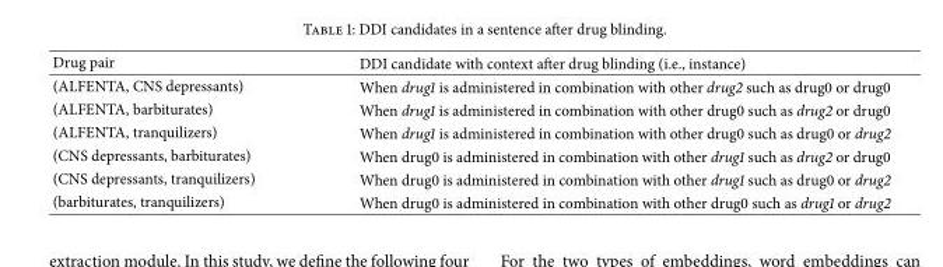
<table><thead><tr><td>Drug pair</td><td>DDI candidate with context after drug blinding (i.e., instance)</td></tr></thead><tbody><tr><td>(ALFENTA, CNS depressants)</td><td>When drug1 is administered in combination with other drug2 such as drug0 or drug0</td></tr><tr><td>(ALFENTA, barbiturates)</td><td>When drug1 is administered in combination with other drug0 such as drug2 or drug0</td></tr><tr><td>(ALFENTA, tranquilizers)</td><td>When drug1 is administered in combination with other drug0 such as drug0 or drug2</td></tr><tr><td>(CNS depressants, barbiturates)</td><td>When drug0 is administered in combination with other drug1 such as drug2 or drug0</td></tr><tr><td>(CNS depressants, tranquilizers)</td><td>When drug0 is administered in combination with other drug1 such as drug0 or drug2</td></tr><tr><td>(barbiturates, tranquilizers)</td><td>When drug0 is administered in combination with other drug0 such as drug1 or drug2</td></tr></tbody></table>